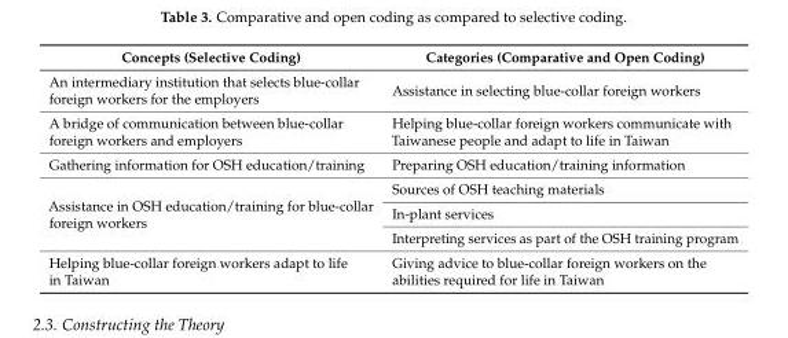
<table><thead><tr><td>Concepts (Selective Coding)</td><td>Categories (Comparative and Open Coding)</td></tr></thead><tbody><tr><td>An intermediary institution that selects blue-collar foreign workers for the employers</td><td>Assistance in selecting blue-collar foreign workers</td></tr><tr><td>A bridge of communication between blue-collar foreign workers and employers</td><td>Helping blue-collar foreign workers communicate with Taiwanese people and adapt to life in Taiwan</td></tr><tr><td>Gathering information for OSH education/training</td><td>Preparing OSH education/training information</td></tr><tr><td rowspan="3">Assistance in OSH education/training for blue-collar foreign workers</td><td>Sources of OSH teaching materials</td></tr><tr><td>In-plant services</td></tr><tr><td>Interpreting services as part of the OSH training program</td></tr><tr><td>Helping blue-collar foreign workers adapt to life in Taiwan</td><td>Giving advice to blue-collar foreign workers on the abilities required for life in Taiwan</td></tr></tbody></table>